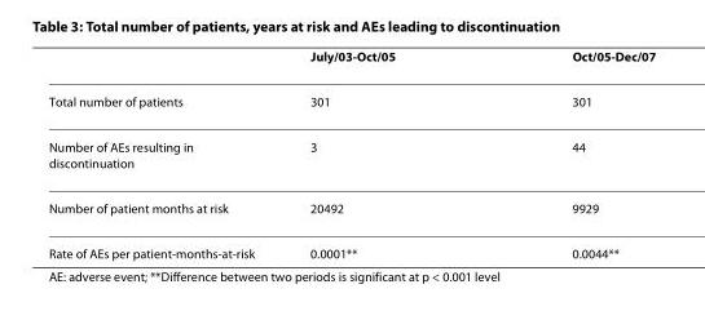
<table><thead><tr><td></td><td>July/03-Oct/05</td><td>Oct/05-Dec/07</td></tr></thead><tbody><tr><td>Total number of patients</td><td>301</td><td>301</td></tr><tr><td>Number of AEs resulting in discontinuation</td><td>3</td><td>44</td></tr><tr><td>Number of patient months at risk</td><td>20492</td><td>9929</td></tr><tr><td>Rate of AEs per patient-months-at-risk</td><td>0.0001**</td><td>0.0044**</td></tr></tbody></table>